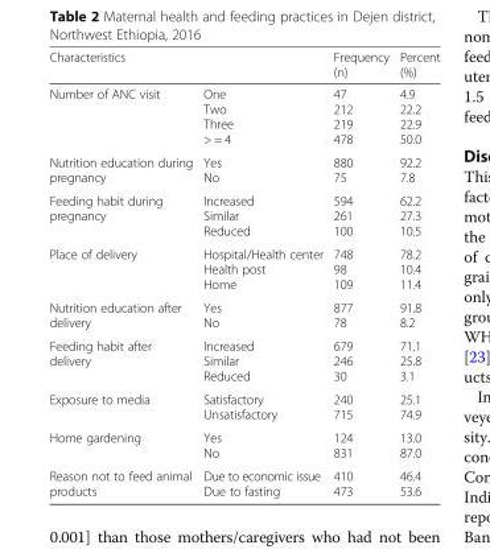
<table><thead><tr><td colspan="2">Characteristics</td><td rowspan="2">Frequency (n) 47 212 219 478</td><td rowspan="2">Percent (%) 4.9 22.2 22.9 50.0</td></tr><tr><td>Number of ANC visit</td><td>One Two Three &gt; = 4</td></tr></thead><tbody><tr><td>Nutrition education during pregnancy</td><td>Yes No</td><td>880 75</td><td>92.2 7.8</td></tr><tr><td>Feeding habit during pregnancy</td><td>Increased Similar Reduced</td><td>594 261 100</td><td>62.2 27.3 10.5</td></tr><tr><td>Place of delivery</td><td>Hospital/Health center Health post Home</td><td>748 98 109</td><td>78.2 10.4 11.4</td></tr><tr><td>Nutrition education after delivery</td><td>Yes No</td><td>877 78</td><td>91.8 8.2</td></tr><tr><td>Feeding habit after delivery</td><td>Increased Similar Reduced</td><td>679 246 30</td><td>71.1 25.8 3.1</td></tr><tr><td>Exposure to media</td><td>Satisfactory Unsatisfactory</td><td>240 715</td><td>25.1 74.9</td></tr><tr><td>Home gardening</td><td>Yes No</td><td>124 831</td><td>13.0 87.0</td></tr><tr><td>Reason not to feed animal products</td><td>Due to economic issue Due to fasting</td><td>410 473</td><td>46.4 53.6</td></tr></tbody></table>